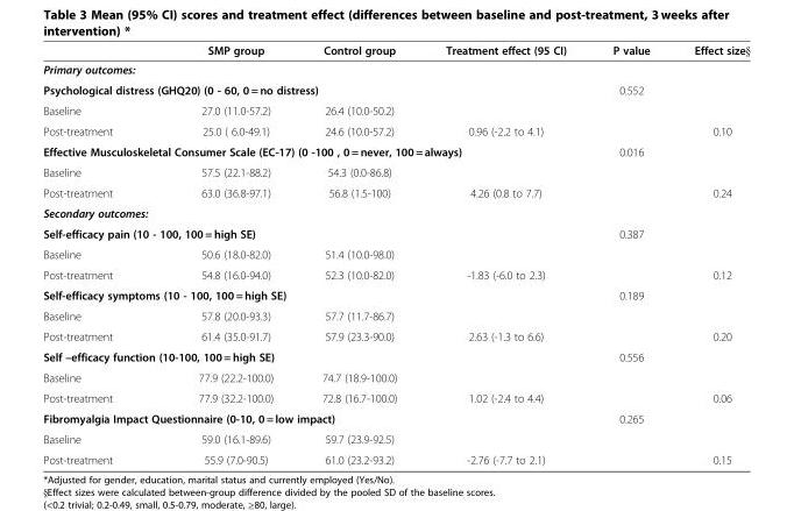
<table><thead><tr><td></td><td>SMP group</td><td>Control group</td><td>Treatment effect (95 CI)</td><td>P value</td><td>Effect size§</td></tr></thead><tbody><tr><td colspan="6">Primary outcomes:</td></tr><tr><td colspan="4">Psychological distress (GHQ20) (0 - 60, 0 = no distress)</td><td>0.552</td><td></td></tr><tr><td>Baseline</td><td>27.0 (11.0-57.2)</td><td>26.4 (10.0-50.2)</td><td></td><td colspan="2"></td></tr><tr><td>Post-treatment</td><td>25.0 ( 6.0-49.1)</td><td>24.6 (10.0-57.2)</td><td>0.96 (-2.2 to 4.1)</td><td></td><td>0.10</td></tr><tr><td colspan="4">Effective Musculoskeletal Consumer Scale (EC-17) (0 -100 , 0 = never, 100 = always)</td><td>0.016</td><td></td></tr><tr><td>Baseline</td><td>57.5 (22.1-88.2)</td><td>54.3 (0.0-86.8)</td><td></td><td colspan="2"></td></tr><tr><td>Post-treatment</td><td>63.0 (36.8-97.1)</td><td>56.8 (1.5-100)</td><td>4.26 (0.8 to 7.7)</td><td></td><td>0.24</td></tr><tr><td colspan="6">Secondary outcomes:</td></tr><tr><td colspan="4">Self-efficacy pain (10 - 100, 100 = high SE)</td><td>0.387</td><td></td></tr><tr><td>Baseline</td><td>50.6 (18.0-82.0)</td><td>51.4 (10.0-98.0)</td><td></td><td colspan="2"></td></tr><tr><td>Post-treatment</td><td>54.8 (16.0-94.0)</td><td>52.3 (10.0-82.0)</td><td>-1.83 (-6.0 to 2.3)</td><td></td><td>0.12</td></tr><tr><td colspan="4">Self-efficacy symptoms (10 - 100, 100 = high SE)</td><td>0.189</td><td></td></tr><tr><td>Baseline</td><td>57.8 (20.0-93.3)</td><td>57.7 (11.7-86.7)</td><td></td><td colspan="2"></td></tr><tr><td>Post-treatment</td><td>61.4 (35.0-91.7)</td><td>57.9 (23.3-90.0)</td><td>2.63 (-1.3 to 6.6)</td><td></td><td>0.20</td></tr><tr><td colspan="4">Self –efficacy function (10-100, 100 = high SE)</td><td>0.556</td><td></td></tr><tr><td>Baseline</td><td>77.9 (22.2-100.0)</td><td>74.7 (18.9-100.0)</td><td></td><td colspan="2"></td></tr><tr><td>Post-treatment</td><td>77.9 (32.2-100.0)</td><td>72.8 (16.7-100.0)</td><td>1.02 (-2.4 to 4.4)</td><td></td><td>0.06</td></tr><tr><td colspan="4">Fibromyalgia Impact Questionnaire (0-10, 0 = low impact)</td><td>0.265</td><td></td></tr><tr><td>Baseline</td><td>59.0 (16.1-89.6)</td><td>59.7 (23.9-92.5)</td><td></td><td colspan="2"></td></tr><tr><td>Post-treatment</td><td>55.9 (7.0-90.5)</td><td>61.0 (23.2-93.2)</td><td>-2.76 (-7.7 to 2.1)</td><td></td><td>0.15</td></tr></tbody></table>